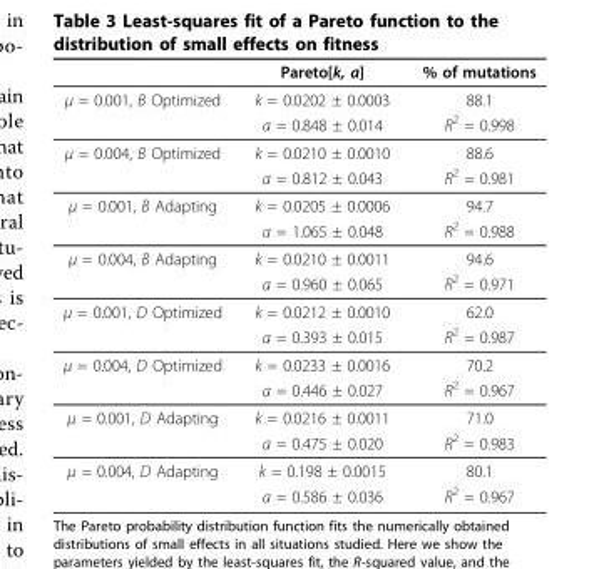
<table><thead><tr><td></td><td>Pareto[k, a]</td><td>% of mutations</td></tr></thead><tbody><tr><td rowspan="2">μ = 0.001, B Optimized</td><td>k = 0.0202 ± 0.0003</td><td>88.1</td></tr><tr><td>a = 0.848 ± 0.014</td><td>R<sup>2</sup> = 0.998</td></tr><tr><td rowspan="2">μ = 0.004, B Optimized</td><td>k = 0.0210 ± 0.0010</td><td>88.6</td></tr><tr><td>a = 0.812 ± 0.043</td><td>R<sup>2</sup> = 0.981</td></tr><tr><td rowspan="2">μ = 0.001, B Adapting</td><td>k = 0.0205 ± 0.0006</td><td>94.7</td></tr><tr><td>a = 1.065 ± 0.048</td><td>R<sup>2</sup> = 0.988</td></tr><tr><td rowspan="2">μ = 0.004, B Adapting</td><td>k = 0.0210 ± 0.0011</td><td>94.6</td></tr><tr><td>a = 0.960 ± 0.065</td><td>R<sup>2</sup> = 0.971</td></tr><tr><td rowspan="2">μ = 0.001, D Optimized</td><td>k = 0.0212 ± 0.0010</td><td>62.0</td></tr><tr><td>a = 0.393 ± 0.015</td><td>R<sup>2</sup> = 0.987</td></tr><tr><td rowspan="2">μ = 0.004, D Optimized</td><td>k = 0.0233 ± 0.0016</td><td>70.2</td></tr><tr><td>a = 0.446 ± 0.027</td><td>R<sup>2</sup> = 0.967</td></tr><tr><td rowspan="2">μ = 0.001, D Adapting</td><td>k = 0.0216 ± 0.0011</td><td>71.0</td></tr><tr><td>a = 0.475 ± 0.020</td><td>R<sup>2</sup> = 0.983</td></tr><tr><td rowspan="2">μ = 0.004, D Adapting</td><td>k = 0.198 ± 0.0015</td><td>80.1</td></tr><tr><td>a = 0.586 ± 0.036</td><td>R<sup>2</sup> = 0.967</td></tr></tbody></table>